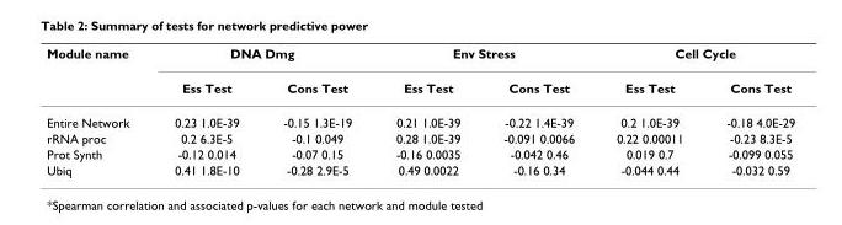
<table><thead><tr><td rowspan="2">Module name</td><td colspan="2">DNA Dmg</td><td colspan="2">Env Stress</td><td colspan="2">Cell Cycle</td></tr><tr><td>Ess Test</td><td>Cons Test</td><td>Ess Test</td><td>Cons Test</td><td>Ess Test</td><td>Cons Test</td></tr></thead><tbody><tr><td>Entire Network</td><td>0.23 1.0E-39</td><td>-0.15 1.3E-19</td><td>0.21 1.0E-39</td><td>-0.22 1.4E-39</td><td>0.2 1.0E-39</td><td>-0.18 4.0E-29</td></tr><tr><td>rRNA proc</td><td>0.2 6.3E-5</td><td>-0.1 0.049</td><td>0.28 1.0E-39</td><td>-0.091 0.0066</td><td>0.22 0.00011</td><td>-0.23 8.3E-5</td></tr><tr><td>Prot Synth</td><td>-0.12 0.014</td><td>-0.07 0.15</td><td>-0.16 0.0035</td><td>-0.042 0.46</td><td>0.019 0.7</td><td>-0.099 0.055</td></tr><tr><td>Ubiq</td><td>0.41 1.8E-10</td><td>-0.28 2.9E-5</td><td>0.49 0.0022</td><td>-0.16 0.34</td><td>-0.044 0.44</td><td>-0.032 0.59</td></tr></tbody></table>